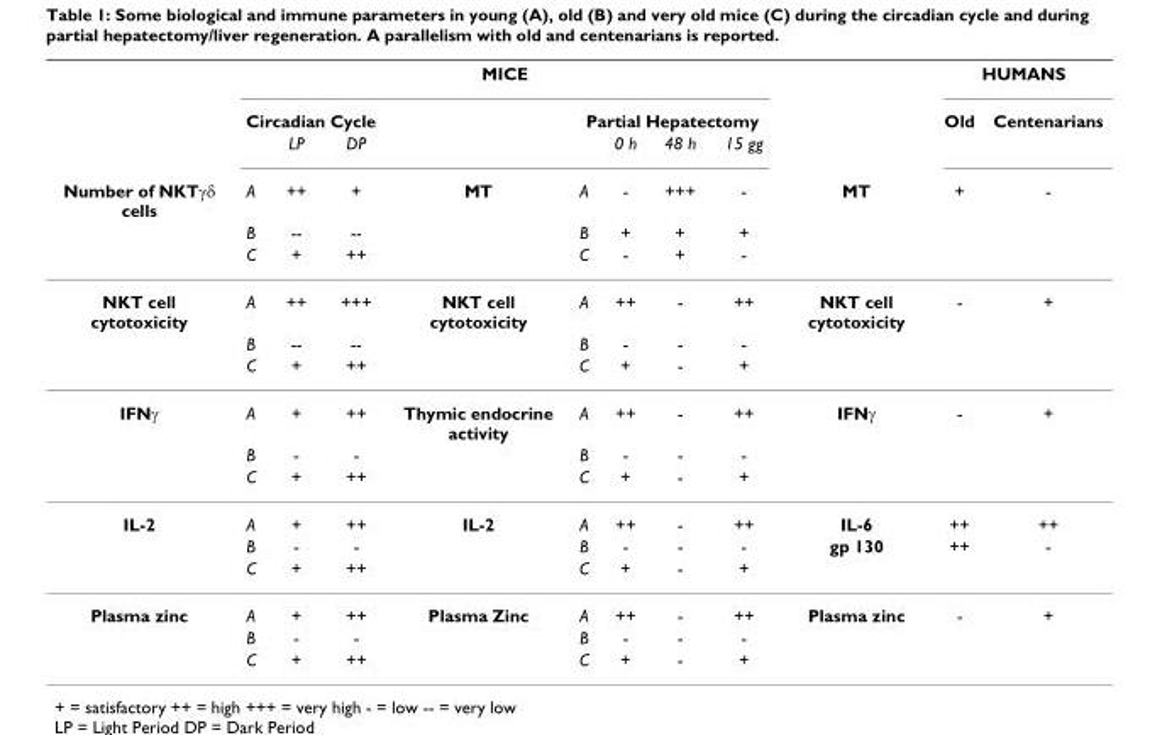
<table><thead><tr><td rowspan="6">Number of NKTγδ cells</td><td colspan="8">MICE</td><td rowspan="6">MT</td><td colspan="2">HUMANS</td></tr><tr><td colspan="3">Circadian Cycle</td><td rowspan="5">MT</td><td colspan="4">Partial Hepatectomy</td><td rowspan="5">Old +</td><td rowspan="5">Centenarians -</td></tr><tr><td rowspan="4">A B C</td><td rowspan="4">LP ++ -- +</td><td rowspan="4">DP + -- ++</td><td rowspan="4">A B C</td><td rowspan="4">0 h - + -</td><td rowspan="4">48 h +++ + +</td><td rowspan="4">15 gg - + -</td></tr><tr></tr><tr></tr><tr></tr></thead><tbody><tr><td rowspan="3">NKT cell cytotoxicity</td><td>A</td><td>++</td><td>+++</td><td>NKT cell cytotoxicity</td><td>A</td><td>++</td><td>-</td><td>++</td><td>NKT cell cytotoxicity</td><td>-</td><td>+</td></tr><tr><td>B</td><td>--</td><td>--</td><td></td><td>B</td><td>-</td><td>-</td><td>-</td><td></td><td></td><td></td></tr><tr><td>C</td><td>+</td><td>++</td><td></td><td>C</td><td>+</td><td>-</td><td>+</td><td></td><td></td><td></td></tr><tr><td rowspan="3">IFNγ</td><td>A</td><td>+</td><td>++</td><td>Thymic endocrine activity</td><td>A</td><td>++</td><td>-</td><td>++</td><td>IFNγ</td><td>-</td><td>+</td></tr><tr><td>B</td><td>-</td><td>-</td><td></td><td>B</td><td>-</td><td>-</td><td>-</td><td></td><td></td><td></td></tr><tr><td>C</td><td>+</td><td>++</td><td></td><td>C</td><td>+</td><td>-</td><td>+</td><td></td><td></td><td></td></tr><tr><td rowspan="3">IL-2</td><td>A</td><td>+</td><td>++</td><td>IL-2</td><td>A</td><td>++</td><td>-</td><td>++</td><td>IL-6</td><td>++</td><td>++</td></tr><tr><td>B</td><td>-</td><td>-</td><td></td><td>B</td><td>-</td><td>-</td><td>-</td><td>gp 130</td><td>++</td><td>-</td></tr><tr><td>C</td><td>+</td><td>++</td><td></td><td>C</td><td>+</td><td>-</td><td>+</td><td></td><td></td><td></td></tr><tr><td rowspan="3">Plasma zinc</td><td>A</td><td>+</td><td>++</td><td>Plasma Zinc</td><td>A</td><td>++</td><td>-</td><td>++</td><td>Plasma zinc</td><td>-</td><td>+</td></tr><tr><td>B</td><td>-</td><td>-</td><td></td><td>B</td><td>-</td><td>-</td><td>-</td><td></td><td></td><td></td></tr><tr><td>C</td><td>+</td><td>++</td><td></td><td>C</td><td>+</td><td>-</td><td>+</td><td></td><td></td><td></td></tr></tbody></table>